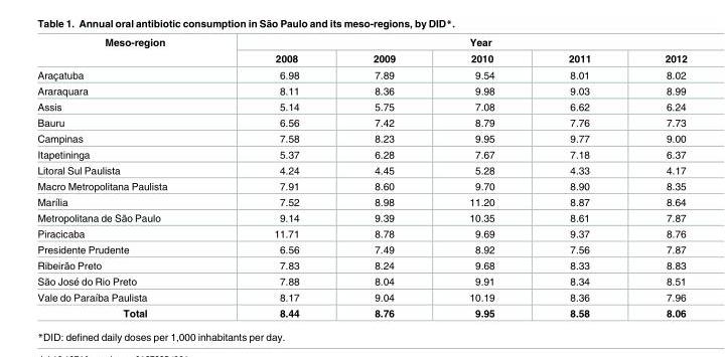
<table><thead><tr><td rowspan="2">Meso-region</td><td colspan="5">Year</td></tr><tr><td>2008</td><td>2009</td><td>2010</td><td>2011</td><td>2012</td></tr></thead><tbody><tr><td>Arac¸atuba</td><td>6.98</td><td>7.89</td><td>9.54</td><td>8.01</td><td>8.02</td></tr><tr><td>Araraquara</td><td>8.11</td><td>8.36</td><td>9.98</td><td>9.03</td><td>8.99</td></tr><tr><td>Assis</td><td>5.14</td><td>5.75</td><td>7.08</td><td>6.62</td><td>6.24</td></tr><tr><td>Bauru</td><td>6.56</td><td>7.42</td><td>8.79</td><td>7.76</td><td>7.73</td></tr><tr><td>Campinas</td><td>7.58</td><td>8.23</td><td>9.95</td><td>9.77</td><td>9.00</td></tr><tr><td>Itapetininga</td><td>5.37</td><td>6.28</td><td>7.67</td><td>7.18</td><td>6.37</td></tr><tr><td>Litoral Sul Paulista</td><td>4.24</td><td>4.45</td><td>5.28</td><td>4.33</td><td>4.17</td></tr><tr><td>Macro Metropolitana Paulista</td><td>7.91</td><td>8.60</td><td>9.70</td><td>8.90</td><td>8.35</td></tr><tr><td>Marı´lia</td><td>7.52</td><td>8.98</td><td>11.20</td><td>8.87</td><td>8.64</td></tr><tr><td>Metropolitana de São Paulo</td><td>9.14</td><td>9.39</td><td>10.35</td><td>8.61</td><td>7.87</td></tr><tr><td>Piracicaba</td><td>11.71</td><td>8.78</td><td>9.69</td><td>9.37</td><td>8.76</td></tr><tr><td>Presidente Prudente</td><td>6.56</td><td>7.49</td><td>8.92</td><td>7.56</td><td>7.87</td></tr><tr><td>Ribeirão Preto</td><td>7.83</td><td>8.24</td><td>9.68</td><td>8.33</td><td>8.83</td></tr><tr><td>São Jose´ do Rio Preto</td><td>7.88</td><td>8.04</td><td>9.91</td><td>8.34</td><td>8.51</td></tr><tr><td>Vale do Paraı´ba Paulista</td><td>8.17</td><td>9.04</td><td>10.19</td><td>8.36</td><td>7.96</td></tr><tr><td>Total</td><td>8.44</td><td>8.76</td><td>9.95</td><td>8.58</td><td>8.06</td></tr></tbody></table>